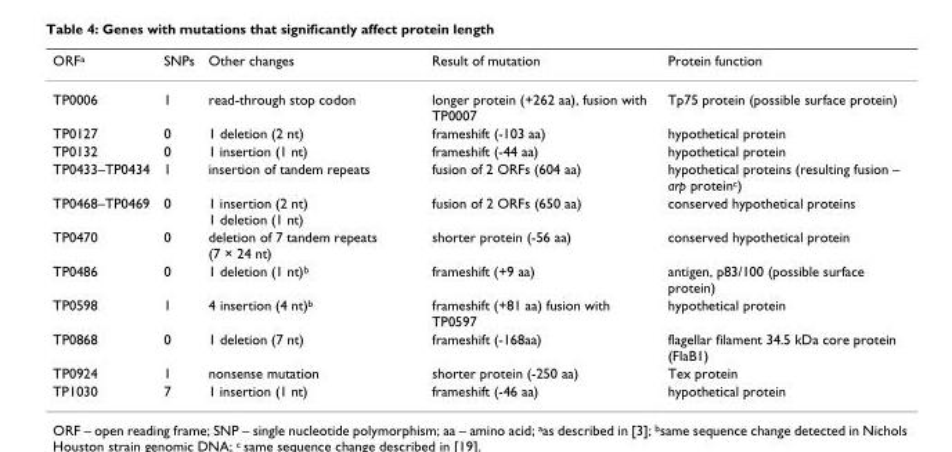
<table><thead><tr><td>ORF<sup>a</sup></td><td>SNPs</td><td>Other changes</td><td>Result of mutation</td><td>Protein function</td></tr></thead><tbody><tr><td>TP0006</td><td>1</td><td>read-through stop codon</td><td>longer protein (+262 aa), fusion with TP0007</td><td>Tp75 protein (possible surface protein)</td></tr><tr><td>TP0127</td><td>0</td><td>1 deletion (2 nt)</td><td>frameshift (-103 aa)</td><td>hypothetical protein</td></tr><tr><td>TP0132</td><td>0</td><td>1 insertion (1 nt)</td><td>frameshift (-44 aa)</td><td>hypothetical protein</td></tr><tr><td>TP0433–TP0434</td><td>1</td><td>insertion of tandem repeats</td><td>fusion of 2 ORFs (604 aa)</td><td>hypothetical proteins (resulting fusion – arp protein<sup>c</sup>)</td></tr><tr><td>TP0468–TP0469</td><td>0</td><td>1 insertion (2 nt) 1 deletion (1 nt)</td><td>fusion of 2 ORFs (650 aa)</td><td>conserved hypothetical proteins</td></tr><tr><td>TP0470</td><td>0</td><td>deletion of 7 tandem repeats (7 × 24 nt)</td><td>shorter protein (-56 aa)</td><td>conserved hypothetical protein</td></tr><tr><td>TP0486</td><td>0</td><td>1 deletion (1 nt)<sup>b</sup></td><td>frameshift (+9 aa)</td><td>antigen, p83/100 (possible surface protein)</td></tr><tr><td>TP0598</td><td>1</td><td>4 insertion (4 nt)<sup>b</sup></td><td>frameshift (+81 aa) fusion with TP0597</td><td>hypothetical protein</td></tr><tr><td>TP0868</td><td>0</td><td>1 deletion (7 nt)</td><td>frameshift (-168aa)</td><td>flagellar filament 34.5 kDa core protein (FlaB1)</td></tr><tr><td>TP0924</td><td>1</td><td>nonsense mutation</td><td>shorter protein (-250 aa)</td><td>Tex protein</td></tr><tr><td>TP1030</td><td>7</td><td>1 insertion (1 nt)</td><td>frameshift (-46 aa)</td><td>hypothetical protein</td></tr></tbody></table>